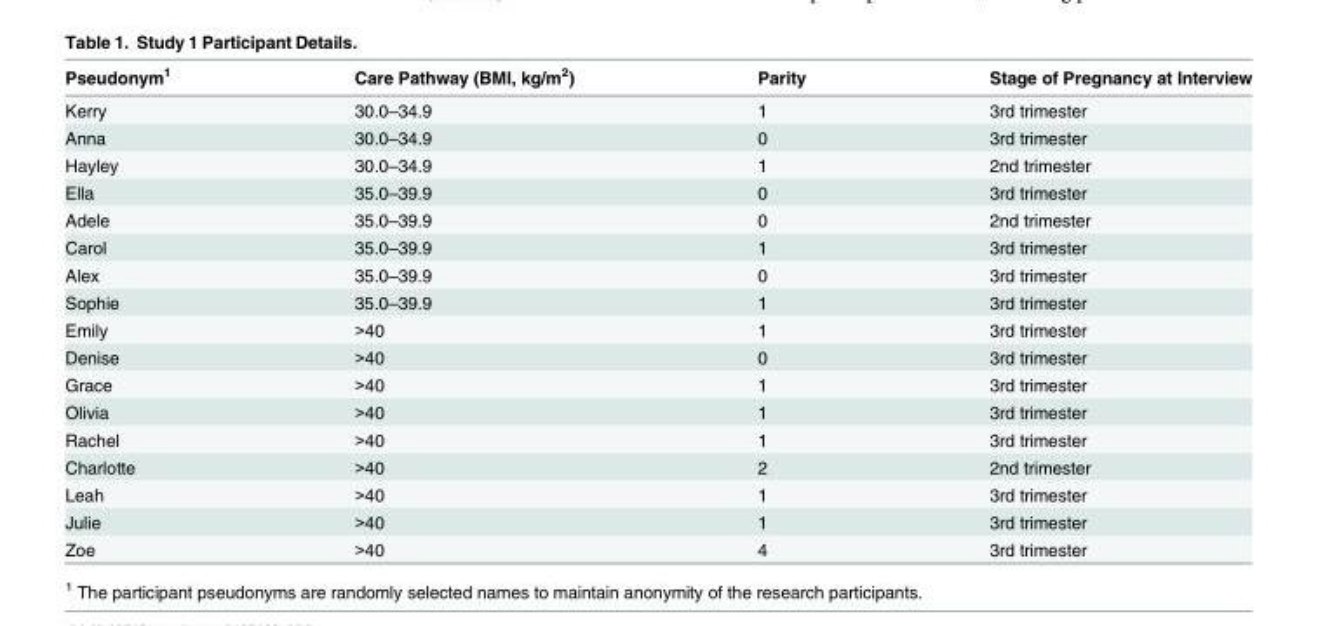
<table><thead><tr><td>Pseudonym<sup>1</sup></td><td>Care Pathway (BMI, kg/m<sup>2</sup>)</td><td>Parity</td><td>Stage of Pregnancy at Interview</td></tr></thead><tbody><tr><td>Kerry</td><td>30.0–34.9</td><td>1</td><td>3rd trimester</td></tr><tr><td>Anna</td><td>30.0–34.9</td><td>0</td><td>3rd trimester</td></tr><tr><td>Hayley</td><td>30.0–34.9</td><td>1</td><td>2nd trimester</td></tr><tr><td>Ella</td><td>35.0–39.9</td><td>0</td><td>3rd trimester</td></tr><tr><td>Adele</td><td>35.0–39.9</td><td>0</td><td>2nd trimester</td></tr><tr><td>Carol</td><td>35.0–39.9</td><td>1</td><td>3rd trimester</td></tr><tr><td>Alex</td><td>35.0–39.9</td><td>0</td><td>3rd trimester</td></tr><tr><td>Sophie</td><td>35.0–39.9</td><td>1</td><td>3rd trimester</td></tr><tr><td>Emily</td><td>&gt;40</td><td>1</td><td>3rd trimester</td></tr><tr><td>Denise</td><td>&gt;40</td><td>0</td><td>3rd trimester</td></tr><tr><td>Grace</td><td>&gt;40</td><td>1</td><td>3rd trimester</td></tr><tr><td>Olivia</td><td>&gt;40</td><td>1</td><td>3rd trimester</td></tr><tr><td>Rachel</td><td>&gt;40</td><td>1</td><td>3rd trimester</td></tr><tr><td>Charlotte</td><td>&gt;40</td><td>2</td><td>2nd trimester</td></tr><tr><td>Leah</td><td>&gt;40</td><td>1</td><td>3rd trimester</td></tr><tr><td>Julie</td><td>&gt;40</td><td>1</td><td>3rd trimester</td></tr><tr><td>Zoe</td><td>&gt;40</td><td>4</td><td>3rd trimester</td></tr></tbody></table>